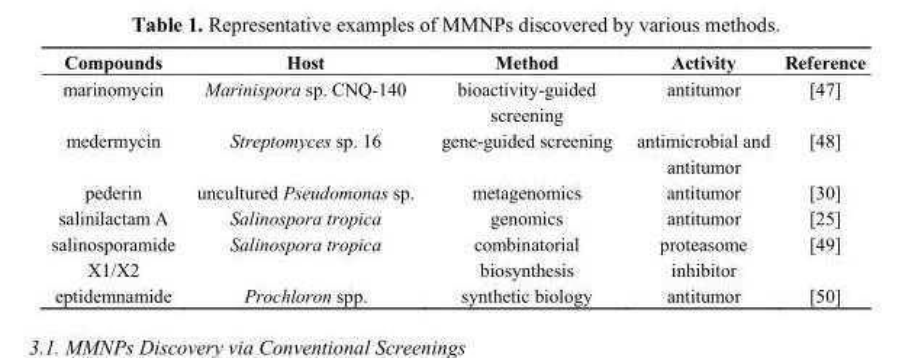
<table><thead><tr><td>Compounds</td><td>Host</td><td>Method</td><td>Activity</td><td>Reference</td></tr></thead><tbody><tr><td>marinomycin</td><td>Marinispora sp. CNQ-140</td><td>bioactivity-guided screening</td><td>antitumor</td><td>[47]</td></tr><tr><td>medermycin</td><td>Streptomyces sp. 16</td><td>gene-guided screening</td><td>antimicrobial and antitumor</td><td>[48]</td></tr><tr><td>pederin</td><td>uncultured Pseudomonas sp.</td><td>metagenomics</td><td>antitumor</td><td>[30]</td></tr><tr><td>salinilactam A</td><td>Salinospora tropica</td><td>genomics</td><td>antitumor</td><td>[25]</td></tr><tr><td>salinosporamide X1/X2</td><td>Salinospora tropica</td><td>combinatorial biosynthesis</td><td>proteasome inhibitor</td><td>[49]</td></tr><tr><td>eptidemnamide</td><td>Prochloron spp.</td><td>synthetic biology</td><td>antitumor</td><td>[50]</td></tr></tbody></table>